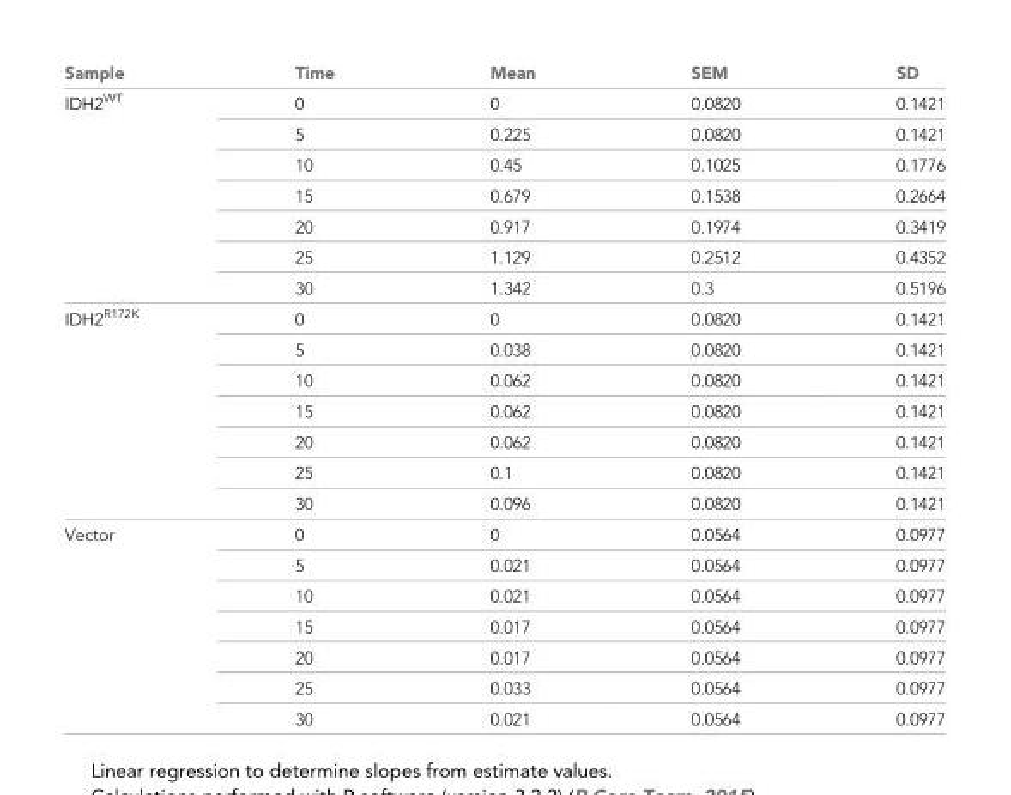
<table><thead><tr><td>Sample</td><td>Time</td><td>Mean</td><td>SEM</td><td>SD</td></tr></thead><tbody><tr><td rowspan="7">IDH2<sup>WT</sup></td><td>0</td><td>0</td><td>0.0820</td><td>0.1421</td></tr><tr><td>5</td><td>0.225</td><td>0.0820</td><td>0.1421</td></tr><tr><td>10</td><td>0.45</td><td>0.1025</td><td>0.1776</td></tr><tr><td>15</td><td>0.679</td><td>0.1538</td><td>0.2664</td></tr><tr><td>20</td><td>0.917</td><td>0.1974</td><td>0.3419</td></tr><tr><td>25</td><td>1.129</td><td>0.2512</td><td>0.4352</td></tr><tr><td>30</td><td>1.342</td><td>0.3</td><td>0.5196</td></tr><tr><td rowspan="7">IDH2<sup>R172K</sup></td><td>0</td><td>0</td><td>0.0820</td><td>0.1421</td></tr><tr><td>5</td><td>0.038</td><td>0.0820</td><td>0.1421</td></tr><tr><td>10</td><td>0.062</td><td>0.0820</td><td>0.1421</td></tr><tr><td>15</td><td>0.062</td><td>0.0820</td><td>0.1421</td></tr><tr><td>20</td><td>0.062</td><td>0.0820</td><td>0.1421</td></tr><tr><td>25</td><td>0.1</td><td>0.0820</td><td>0.1421</td></tr><tr><td>30</td><td>0.096</td><td>0.0820</td><td>0.1421</td></tr><tr><td rowspan="7">Vector</td><td>0</td><td>0</td><td>0.0564</td><td>0.0977</td></tr><tr><td>5</td><td>0.021</td><td>0.0564</td><td>0.0977</td></tr><tr><td>10</td><td>0.021</td><td>0.0564</td><td>0.0977</td></tr><tr><td>15</td><td>0.017</td><td>0.0564</td><td>0.0977</td></tr><tr><td>20</td><td>0.017</td><td>0.0564</td><td>0.0977</td></tr><tr><td>25</td><td>0.033</td><td>0.0564</td><td>0.0977</td></tr><tr><td>30</td><td>0.021</td><td>0.0564</td><td>0.0977</td></tr></tbody></table>